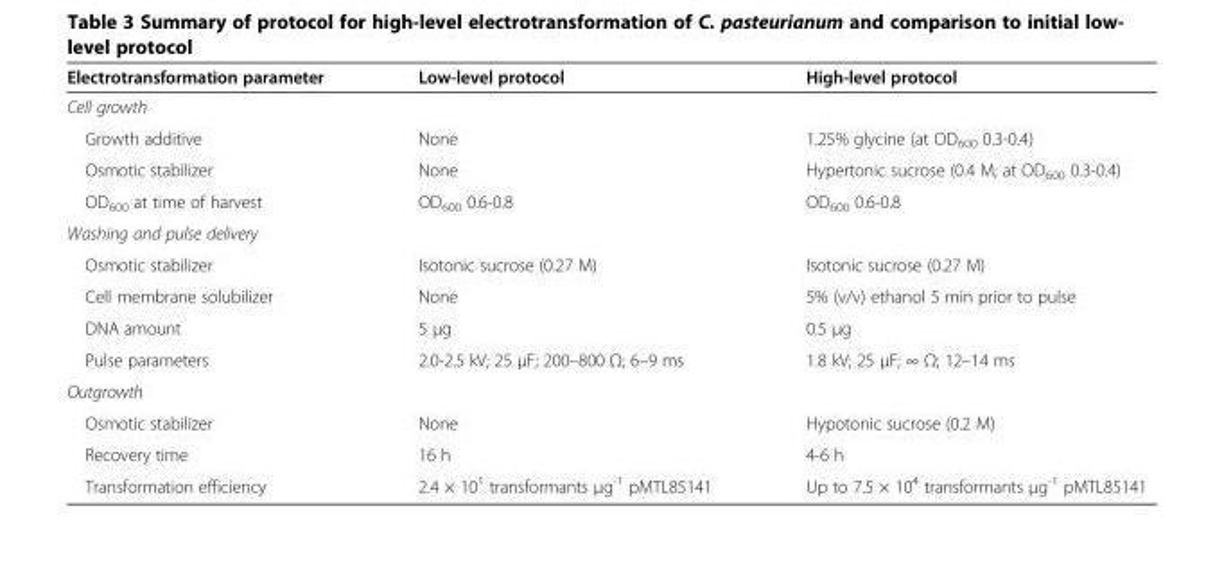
<table><thead><tr><td>Electrotransformation parameter</td><td>Low-level protocol</td><td>High-level protocol</td></tr></thead><tbody><tr><td colspan="3">Cell growth</td></tr><tr><td>Growth additive</td><td>None</td><td>1.25% glycine (at OD<sub>600</sub> 0.3-0.4)</td></tr><tr><td>Osmotic stabilizer</td><td>None</td><td>Hypertonic sucrose (0.4 M; at OD<sub>600</sub> 0.3-0.4)</td></tr><tr><td>OD<sub>600</sub> at time of harvest</td><td>OD<sub>600</sub> 0.6-0.8</td><td>OD<sub>600</sub> 0.6-0.8</td></tr><tr><td colspan="3">Washing and pulse delivery</td></tr><tr><td>Osmotic stabilizer</td><td>Isotonic sucrose (0.27 M)</td><td>Isotonic sucrose (0.27 M)</td></tr><tr><td>Cell membrane solubilizer</td><td>None</td><td>5% (v/v) ethanol 5 min prior to pulse</td></tr><tr><td>DNA amount</td><td>5 μg</td><td>0.5 μg</td></tr><tr><td>Pulse parameters</td><td>2.0-2.5 kV; 25 μF; 200–800 Ω; 6–9 ms</td><td>1.8 kV; 25 μF; ∞ Ω; 12–14 ms</td></tr><tr><td colspan="3">Outgrowth</td></tr><tr><td>Osmotic stabilizer</td><td>None</td><td>Hypotonic sucrose (0.2 M)</td></tr><tr><td>Recovery time</td><td>16 h</td><td>4-6 h</td></tr><tr><td>Transformation efficiency</td><td>2.4 × 10<sup>1</sup> transformants μg<sup>-1</sup> pMTL85141</td><td>Up to 7.5 × 10<sup>4</sup> transformants μg<sup>-1</sup> pMTL85141</td></tr></tbody></table>